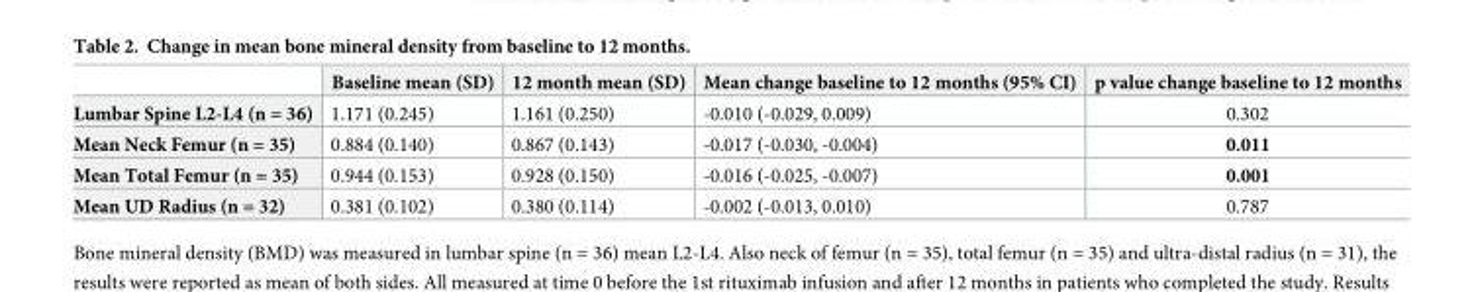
<table><thead><tr><td></td><td>Baseline mean (SD)</td><td>12 month mean (SD)</td><td>Mean change baseline to 12 months (95% CI)</td><td>p value change baseline to 12 months</td></tr></thead><tbody><tr><td>Lumbar Spine L2-L4 (n = 36)</td><td>1.171 (0.245)</td><td>1.161 (0.250)</td><td>-0.010 (-0.029, 0.009)</td><td>0.302</td></tr><tr><td>Mean Neck Femur (n = 35)</td><td>0.884 (0.140)</td><td>0.867 (0.143)</td><td>-0.017 (-0.030, -0.004)</td><td>0.011</td></tr><tr><td>Mean Total Femur (n = 35)</td><td>0.944 (0.153)</td><td>0.928 (0.150)</td><td>-0.016 (-0.025, -0.007)</td><td>0.001</td></tr><tr><td>Mean UD Radius (n = 32)</td><td>0.381 (0.102)</td><td>0.380 (0.114)</td><td>-0.002 (-0.013, 0.010)</td><td>0.787</td></tr></tbody></table>